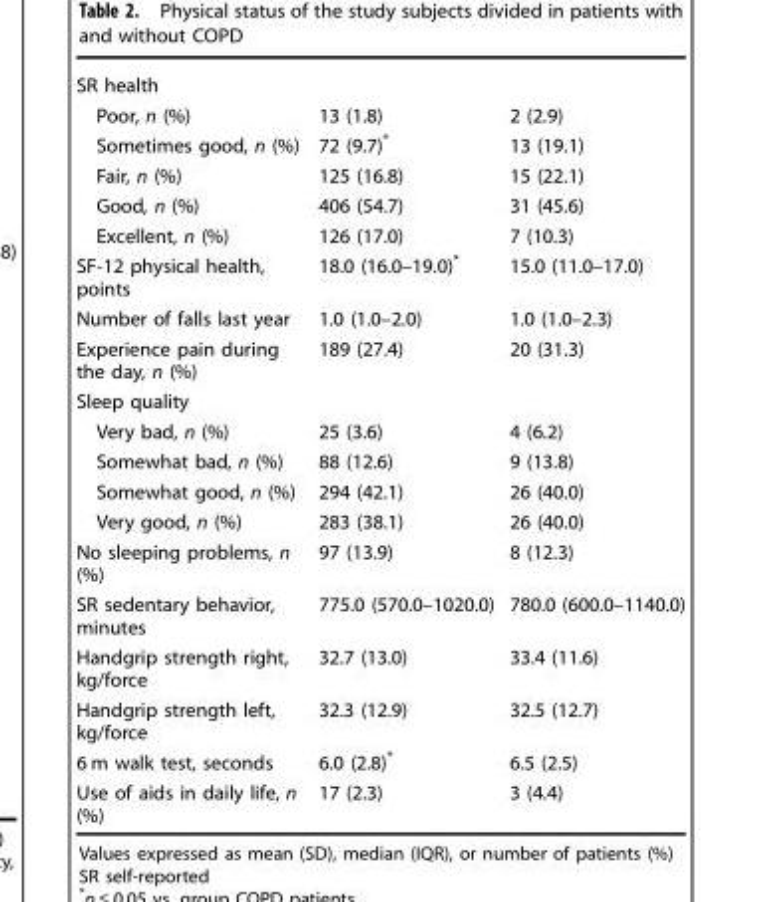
<table><tbody><tr><td colspan="3">SR health</td></tr><tr><td>Poor, n (%)</td><td>13 (1.8)</td><td>2 (2.9)</td></tr><tr><td>Sometimes good, n (%)</td><td>72 (9.7)*</td><td>13 (19.1)</td></tr><tr><td>Fair, n (%)</td><td>125 (16.8)</td><td>15 (22.1)</td></tr><tr><td>Good, n (%)</td><td>406 (54.7)</td><td>31 (45.6)</td></tr><tr><td>Excellent, n (%)</td><td>126 (17.0)</td><td>7 (10.3)</td></tr><tr><td>SF-12 physical health, points</td><td>18.0 (16.0–19.0)*</td><td>15.0 (11.0–17.0)</td></tr><tr><td>Number of falls last year</td><td>1.0 (1.0–2.0)</td><td>1.0 (1.0–2.3)</td></tr><tr><td>Experience pain during the day, n (%)</td><td>189 (27.4)</td><td>20 (31.3)</td></tr><tr><td colspan="3">Sleep quality</td></tr><tr><td>Very bad, n (%)</td><td>25 (3.6)</td><td>4 (6.2)</td></tr><tr><td>Somewhat bad, n (%)</td><td>88 (12.6)</td><td>9 (13.8)</td></tr><tr><td>Somewhat good, n (%)</td><td>294 (42.1)</td><td>26 (40.0)</td></tr><tr><td>Very good, n (%)</td><td>283 (38.1)</td><td>26 (40.0)</td></tr><tr><td>No sleeping problems, n (%)</td><td>97 (13.9)</td><td>8 (12.3)</td></tr><tr><td>SR sedentary behavior, minutes</td><td>775.0 (570.0–1020.0)</td><td>780.0 (600.0–1140.0)</td></tr><tr><td>Handgrip strength right, kg/force</td><td>32.7 (13.0)</td><td>33.4 (11.6)</td></tr><tr><td>Handgrip strength left, kg/force</td><td>32.3 (12.9)</td><td>32.5 (12.7)</td></tr><tr><td>6 m walk test, seconds</td><td>6.0 (2.8)*</td><td>6.5 (2.5)</td></tr><tr><td>Use of aids in daily life, n (%)</td><td>17 (2.3)</td><td>3 (4.4)</td></tr></tbody></table>